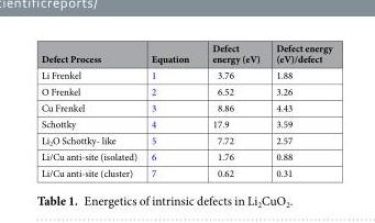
<table><thead><tr><td>Defect Process</td><td>Equation</td><td>Defect energy (eV)</td><td>Defect energy (eV)/defect</td></tr></thead><tbody><tr><td>Li Frenkel</td><td>1</td><td>3.76</td><td>1.88</td></tr><tr><td>O Frenkel</td><td>2</td><td>6.52</td><td>3.26</td></tr><tr><td>Cu Frenkel</td><td>3</td><td>8.86</td><td>4.43</td></tr><tr><td>Schottky</td><td>4</td><td>17.9</td><td>3.59</td></tr><tr><td>Li<sub>2</sub>O Schottky- like</td><td>5</td><td>7.72</td><td>2.57</td></tr><tr><td>Li/Cu anti-site (isolated)</td><td>6</td><td>1.76</td><td>0.88</td></tr><tr><td>Li/Cu anti-site (cluster)</td><td>7</td><td>0.62</td><td>0.31</td></tr></tbody></table>